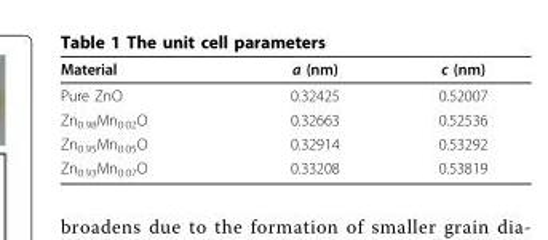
<table><thead><tr><td>Material</td><td>a (nm)</td><td>c (nm)</td></tr></thead><tbody><tr><td>Pure ZnO</td><td>0.32425</td><td>0.52007</td></tr><tr><td>Zn<sub>0.98</sub>Mn<sub>0.02</sub>O</td><td>0.32663</td><td>0.52536</td></tr><tr><td>Zn<sub>0.95</sub>Mn<sub>0.05</sub>O</td><td>0.32914</td><td>0.53292</td></tr><tr><td>Zn<sub>0.93</sub>Mn<sub>0.07</sub>O</td><td>0.33208</td><td>0.53819</td></tr></tbody></table>